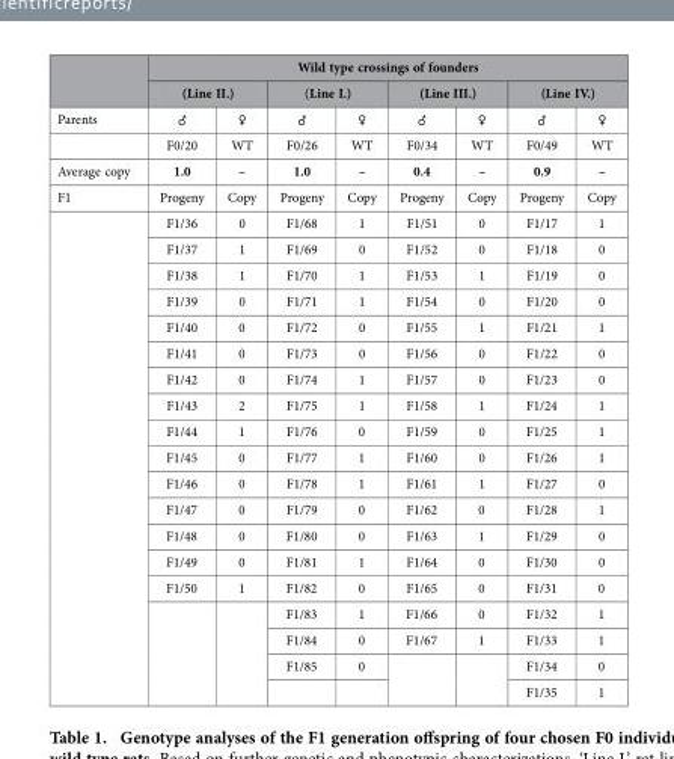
<table><thead><tr><td rowspan="3">Parents</td><td colspan="8">Wild type crossings of founders</td></tr><tr><td colspan="2">(Line II.)</td><td colspan="2">(Line I.)</td><td colspan="2">(Line III.)</td><td colspan="2">(Line IV.)</td></tr><tr><td>♂</td><td>♀</td><td>♂</td><td>♀</td><td>♂</td><td>♀</td><td>♂</td><td>♀</td></tr></thead><tbody><tr><td></td><td>F0/20</td><td>WT</td><td>F0/26</td><td>WT</td><td>F0/34</td><td>WT</td><td>F0/49</td><td>WT</td></tr><tr><td>Average copy</td><td>1.0</td><td>–</td><td>1.0</td><td>–</td><td>0.4</td><td>–</td><td>0.9</td><td>–</td></tr><tr><td rowspan="20">F1</td><td>Progeny</td><td>Copy</td><td>Progeny</td><td>Copy</td><td>Progeny</td><td>Copy</td><td>Progeny</td><td>Copy</td></tr><tr><td>F1/36</td><td>0</td><td>F1/68</td><td>1</td><td>F1/51</td><td>0</td><td>F1/17</td><td>1</td></tr><tr><td>F1/37</td><td>1</td><td>F1/69</td><td>0</td><td>F1/52</td><td>0</td><td>F1/18</td><td>0</td></tr><tr><td>F1/38</td><td>1</td><td>F1/70</td><td>1</td><td>F1/53</td><td>1</td><td>F1/19</td><td>0</td></tr><tr><td>F1/39</td><td>0</td><td>F1/71</td><td>1</td><td>F1/54</td><td>0</td><td>F1/20</td><td>0</td></tr><tr><td>F1/40</td><td>0</td><td>F1/72</td><td>0</td><td>F1/55</td><td>1</td><td>F1/21</td><td>1</td></tr><tr><td>F1/41</td><td>0</td><td>F1/73</td><td>0</td><td>F1/56</td><td>0</td><td>F1/22</td><td>0</td></tr><tr><td>F1/42</td><td>0</td><td>F1/74</td><td>1</td><td>F1/57</td><td>0</td><td>F1/23</td><td>0</td></tr><tr><td>F1/43</td><td>2</td><td>F1/75</td><td>1</td><td>F1/58</td><td>1</td><td>F1/24</td><td>1</td></tr><tr><td>F1/44</td><td>1</td><td>F1/76</td><td>0</td><td>F1/59</td><td>0</td><td>F1/25</td><td>1</td></tr><tr><td>F1/45</td><td>0</td><td>F1/77</td><td>1</td><td>F1/60</td><td>0</td><td>F1/26</td><td>1</td></tr><tr><td>F1/46</td><td>0</td><td>F1/78</td><td>1</td><td>F1/61</td><td>1</td><td>F1/27</td><td>0</td></tr><tr><td>F1/47</td><td>0</td><td>F1/79</td><td>0</td><td>F1/62</td><td>0</td><td>F1/28</td><td>1</td></tr><tr><td>F1/48</td><td>0</td><td>F1/80</td><td>0</td><td>F1/63</td><td>1</td><td>F1/29</td><td>0</td></tr><tr><td>F1/49</td><td>0</td><td>F1/81</td><td>1</td><td>F1/64</td><td>0</td><td>F1/30</td><td>0</td></tr><tr><td>F1/50</td><td>1</td><td>F1/82</td><td>0</td><td>F1/65</td><td>0</td><td>F1/31</td><td>0</td></tr><tr><td rowspan="4"></td><td rowspan="4"></td><td>F1/83</td><td>1</td><td>F1/66</td><td>0</td><td>F1/32</td><td>1</td></tr><tr><td>F1/84</td><td>0</td><td>F1/67</td><td>1</td><td>F1/33</td><td>1</td></tr><tr><td>F1/85</td><td>0</td><td rowspan="2"></td><td rowspan="2"></td><td>F1/34</td><td>0</td></tr><tr><td></td><td></td><td>F1/35</td><td>1</td></tr></tbody></table>